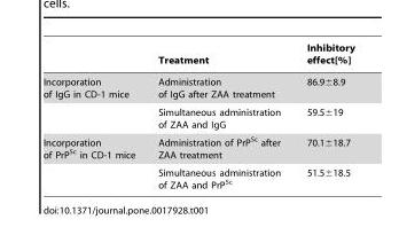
<table><thead><tr><td></td><td>Treatment</td><td>Inhibitory effect[%]</td></tr></thead><tbody><tr><td rowspan="2">Incorporation of IgG in CD-1 mice</td><td>Administration of IgG after ZAA treatment</td><td>86.9±8.9</td></tr><tr><td>Simultaneous administration of ZAA and IgG</td><td>59.5±19</td></tr><tr><td rowspan="2">Incorporation of PrP<sup>Sc</sup> in CD-1 mice</td><td>Administration of PrP<sup>Sc</sup> after ZAA treatment</td><td>70.1±18.7</td></tr><tr><td>Simultaneous administration of ZAA and PrP<sup>Sc</sup></td><td>51.5±18.5</td></tr></tbody></table>